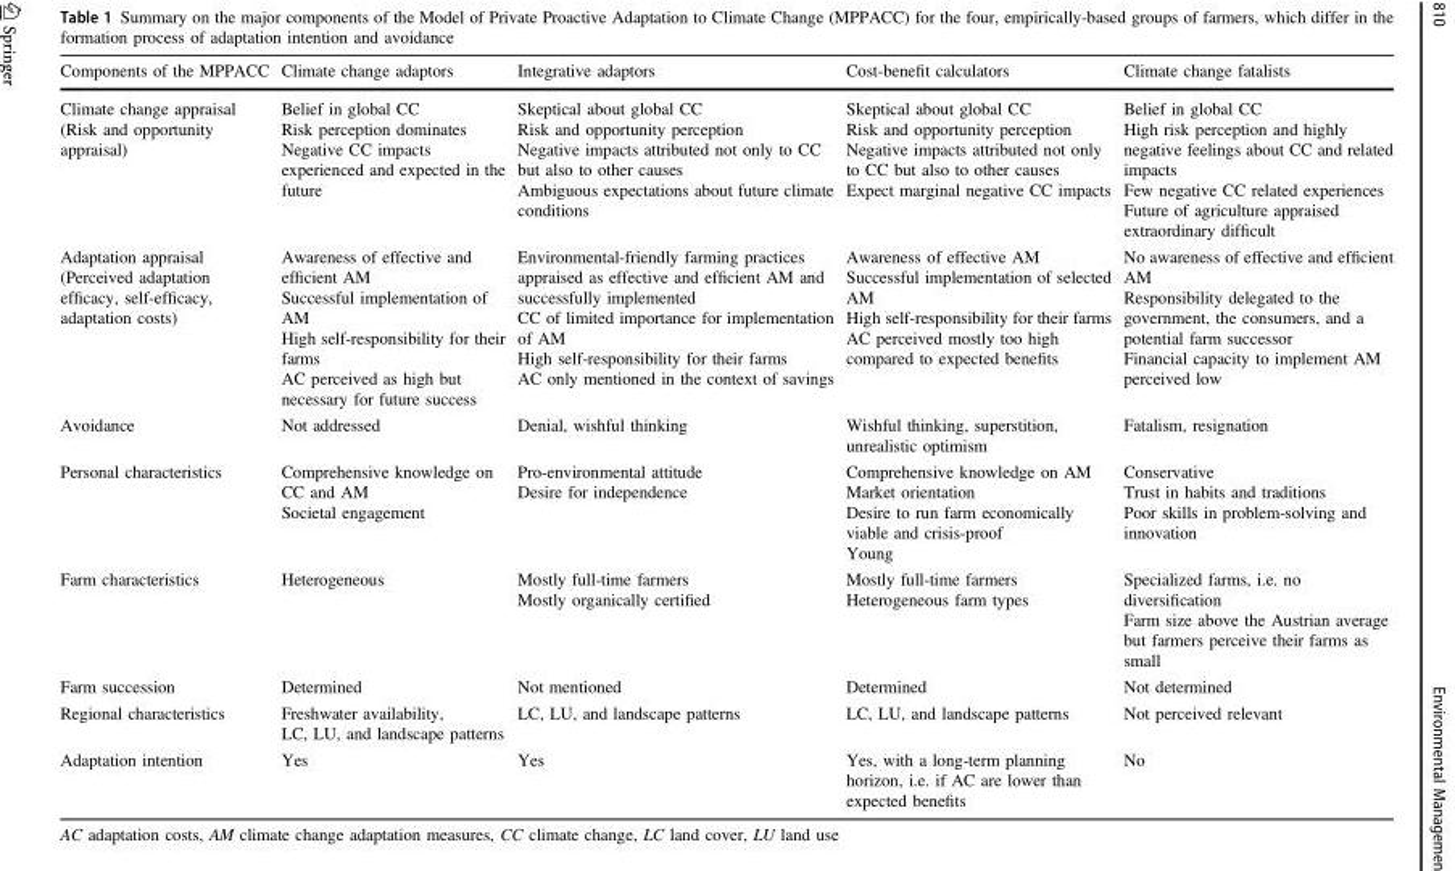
<table><thead><tr><td>Components of the MPPACC</td><td>Climate change adaptors</td><td>Integrative adaptors</td><td>Cost-benefit calculators</td><td>Climate change fatalists</td></tr></thead><tbody><tr><td>Climate change appraisal (Risk and opportunity appraisal)</td><td>Belief in global CC Risk perception dominates Negative CC impacts experienced and expected in the future</td><td>Skeptical about global CC Risk and opportunity perception Negative impacts attributed not only to CC but also to other causes Ambiguous expectations about future climate conditions</td><td>Skeptical about global CC Risk and opportunity perception Negative impacts attributed not only to CC but also to other causes Expect marginal negative CC impacts</td><td>Belief in global CC High risk perception and highly negative feelings about CC and related impacts Few negative CC related experiences Future of agriculture appraised extraordinary difficult</td></tr><tr><td>Adaptation appraisal (Perceived adaptation efficacy, self-efficacy, adaptation costs)</td><td>Awareness of effective and efficient AM Successful implementation of AM High self-responsibility for their farms AC perceived as high but necessary for future success</td><td>Environmental-friendly farming practices appraised as effective and efficient AM and successfully implemented CC of limited importance for implementation of AM High self-responsibility for their farms AC only mentioned in the context of savings</td><td>Awareness of effective AM Successful implementation of selected AM High self-responsibility for their farms AC perceived mostly too high compared to expected benefits</td><td>No awareness of effective and efficient AM Responsibility delegated to the government, the consumers, and a potential farm successor Financial capacity to implement AM perceived low</td></tr><tr><td>Avoidance</td><td>Not addressed</td><td>Denial, wishful thinking</td><td>Wishful thinking, superstition, unrealistic optimism</td><td>Fatalism, resignation</td></tr><tr><td>Personal characteristics</td><td>Comprehensive knowledge on CC and AM Societal engagement</td><td>Pro-environmental attitude Desire for independence</td><td>Comprehensive knowledge on AM Market orientation Desire to run farm economically viable and crisis-proof Young</td><td>Conservative Trust in habits and traditions Poor skills in problem-solving and innovation</td></tr><tr><td>Farm characteristics</td><td>Heterogeneous</td><td>Mostly full-time farmers Mostly organically certified</td><td>Mostly full-time farmers Heterogeneous farm types</td><td>Specialized farms, i.e. no diversification Farm size above the Austrian average but farmers perceive their farms as small</td></tr><tr><td>Farm succession</td><td>Determined</td><td>Not mentioned</td><td>Determined</td><td>Not determined</td></tr><tr><td>Regional characteristics</td><td>Freshwater availability, LC, LU, and landscape patterns</td><td>LC, LU, and landscape patterns</td><td>LC, LU, and landscape patterns</td><td>Not perceived relevant</td></tr><tr><td>Adaptation intention</td><td>Yes</td><td>Yes</td><td>Yes, with a long-term planning horizon, i.e. if AC are lower than expected benefits</td><td>No</td></tr></tbody></table>